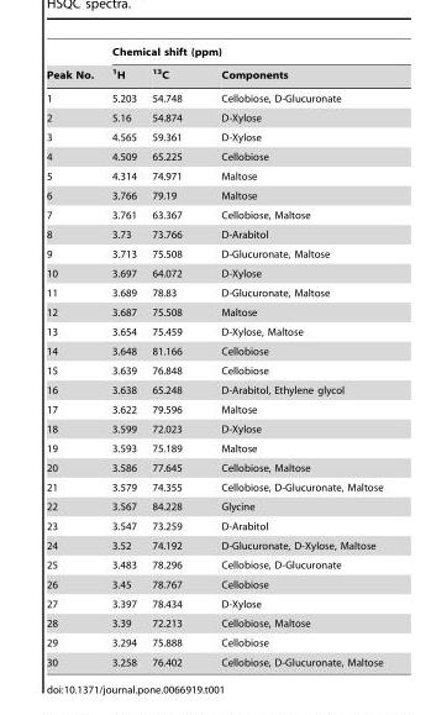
<table><thead><tr><td rowspan="2">Peak No.</td><td colspan="3">Chemical shift (ppm)</td></tr><tr><td><sup>1</sup>H</td><td><sup>13</sup>C</td><td>Components</td></tr></thead><tbody><tr><td>1</td><td>5.203</td><td>54.748</td><td>Cellobiose, D-Glucuronate</td></tr><tr><td>2</td><td>5.16</td><td>54.874</td><td>D-Xylose</td></tr><tr><td>3</td><td>4.565</td><td>59.361</td><td>D-Xylose</td></tr><tr><td>4</td><td>4.509</td><td>65.225</td><td>Cellobiose</td></tr><tr><td>5</td><td>4.314</td><td>74.971</td><td>Maltose</td></tr><tr><td>6</td><td>3.766</td><td>79.19</td><td>Maltose</td></tr><tr><td>7</td><td>3.761</td><td>63.367</td><td>Cellobiose, Maltose</td></tr><tr><td>8</td><td>3.73</td><td>73.766</td><td>D-Arabitol</td></tr><tr><td>9</td><td>3.713</td><td>75.508</td><td>D-Glucuronate, Maltose</td></tr><tr><td>10</td><td>3.697</td><td>64.072</td><td>D-Xylose</td></tr><tr><td>11</td><td>3.689</td><td>78.83</td><td>D-Glucuronate, Maltose</td></tr><tr><td>12</td><td>3.687</td><td>75.508</td><td>Maltose</td></tr><tr><td>13</td><td>3.654</td><td>75.459</td><td>D-Xylose, Maltose</td></tr><tr><td>14</td><td>3.648</td><td>81.166</td><td>Cellobiose</td></tr><tr><td>15</td><td>3.639</td><td>76.848</td><td>Cellobiose</td></tr><tr><td>16</td><td>3.638</td><td>65.248</td><td>D-Arabitol, Ethylene glycol</td></tr><tr><td>17</td><td>3.622</td><td>79.596</td><td>Maltose</td></tr><tr><td>18</td><td>3.599</td><td>72.023</td><td>D-Xylose</td></tr><tr><td>19</td><td>3.593</td><td>75.189</td><td>Maltose</td></tr><tr><td>20</td><td>3.586</td><td>77.645</td><td>Cellobiose, Maltose</td></tr><tr><td>21</td><td>3.579</td><td>74.355</td><td>Cellobiose, D-Glucuronate, Maltose</td></tr><tr><td>22</td><td>3.567</td><td>84.228</td><td>Glycine</td></tr><tr><td>23</td><td>3.547</td><td>73.259</td><td>D-Arabitol</td></tr><tr><td>24</td><td>3.52</td><td>74.192</td><td>D-Glucuronate, D-Xylose, Maltose</td></tr><tr><td>25</td><td>3.483</td><td>78.296</td><td>Cellobiose, D-Glucuronate</td></tr><tr><td>26</td><td>3.45</td><td>78.767</td><td>Cellobiose</td></tr><tr><td>27</td><td>3.397</td><td>78.434</td><td>D-Xylose</td></tr><tr><td>28</td><td>3.39</td><td>72.213</td><td>Cellobiose, Maltose</td></tr><tr><td>29</td><td>3.294</td><td>75.888</td><td>Cellobiose</td></tr><tr><td>30</td><td>3.258</td><td>76.402</td><td>Cellobiose, D-Glucuronate, Maltose</td></tr></tbody></table>